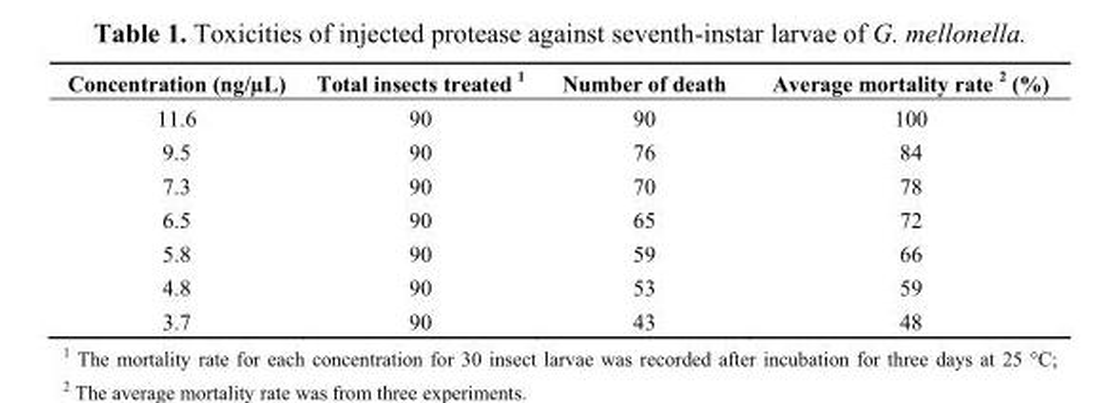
<table><thead><tr><td>Concentration (ng/µL)</td><td>Total insects treated <sup>1</sup></td><td>Number of death</td><td>Average mortality rate <sup>2</sup> (%)</td></tr></thead><tbody><tr><td>11.6</td><td>90</td><td>90</td><td>100</td></tr><tr><td>9.5</td><td>90</td><td>76</td><td>84</td></tr><tr><td>7.3</td><td>90</td><td>70</td><td>78</td></tr><tr><td>6.5</td><td>90</td><td>65</td><td>72</td></tr><tr><td>5.8</td><td>90</td><td>59</td><td>66</td></tr><tr><td>4.8</td><td>90</td><td>53</td><td>59</td></tr><tr><td>3.7</td><td>90</td><td>43</td><td>48</td></tr></tbody></table>